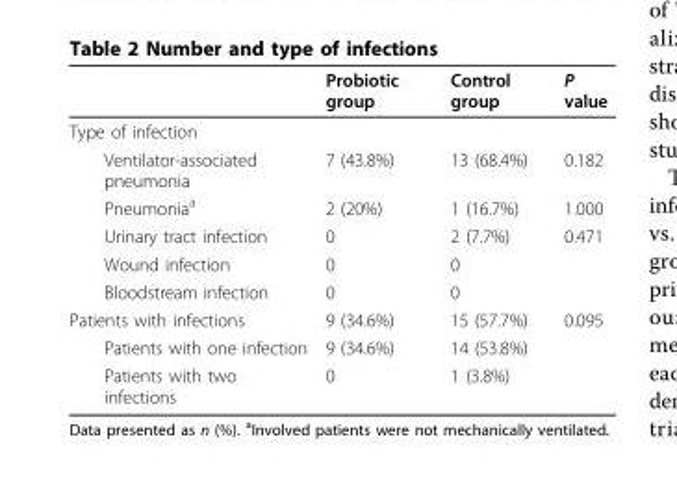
<table><thead><tr><td></td><td>Probiotic group</td><td>Control group</td><td>P value</td></tr></thead><tbody><tr><td colspan="4">Type of infection</td></tr><tr><td>Ventilator-associated pneumonia</td><td>7 (43.8%)</td><td>13 (68.4%)</td><td>0.182</td></tr><tr><td>Pneumonia<sup>a</sup></td><td>2 (20%)</td><td>1 (16.7%)</td><td>1.000</td></tr><tr><td>Urinary tract infection</td><td>0</td><td>2 (7.7%)</td><td>0.471</td></tr><tr><td>Wound infection</td><td>0</td><td>0</td><td></td></tr><tr><td>Bloodstream infection</td><td>0</td><td>0</td><td></td></tr><tr><td>Patients with infections</td><td>9 (34.6%)</td><td>15 (57.7%)</td><td>0.095</td></tr><tr><td>Patients with one infection</td><td>9 (34.6%)</td><td>14 (53.8%)</td><td></td></tr><tr><td>Patients with two infections</td><td>0</td><td>1 (3.8%)</td><td></td></tr></tbody></table>